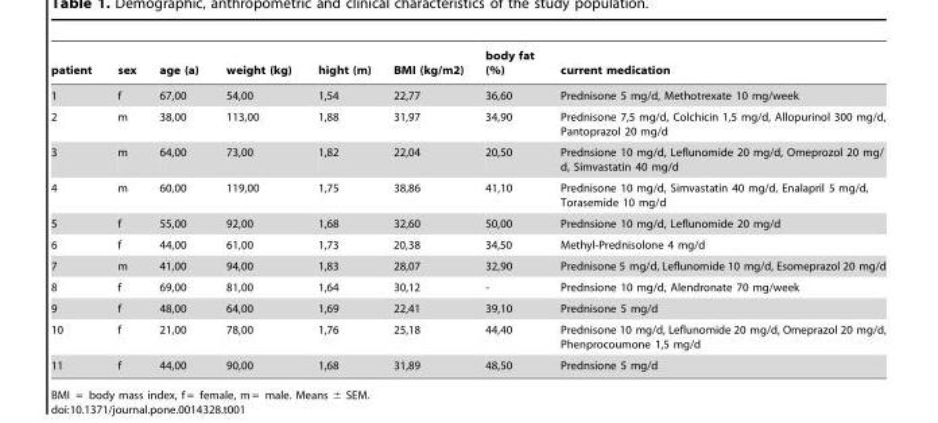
<table><thead><tr><td>patient</td><td>sex</td><td>age (a)</td><td>weight (kg)</td><td>hight (m)</td><td>BMI (kg/m2)</td><td>body fat (%)</td><td>current medication</td></tr></thead><tbody><tr><td>1</td><td>f</td><td>67,00</td><td>54,00</td><td>1,54</td><td>22,77</td><td>36,60</td><td>Prednisone 5 mg/d, Methotrexate 10 mg/week</td></tr><tr><td>2</td><td>m</td><td>38,00</td><td>113,00</td><td>1,88</td><td>31,97</td><td>34,90</td><td>Prednisone 7,5 mg/d, Colchicin 1,5 mg/d, Allopurinol 300 mg/d, Pantoprazol 20 mg/d</td></tr><tr><td>3</td><td>m</td><td>64,00</td><td>73,00</td><td>1,82</td><td>22,04</td><td>20,50</td><td>Prednsione 10 mg/d, Leflunomide 20 mg/d, Omeprozol 20 mg/ d, Simvastatin 40 mg/d</td></tr><tr><td>4</td><td>m</td><td>60,00</td><td>119,00</td><td>1,75</td><td>38,86</td><td>41,10</td><td>Prednisone 10 mg/d, Simvastatin 40 mg/d, Enalapril 5 mg/d, Torasemide 10 mg/d</td></tr><tr><td>5</td><td>f</td><td>55,00</td><td>92,00</td><td>1,68</td><td>32,60</td><td>50,00</td><td>Prednsione 10 mg/d, Leflunomide 20 mg/d</td></tr><tr><td>6</td><td>f</td><td>44,00</td><td>61,00</td><td>1,73</td><td>20,38</td><td>34,50</td><td>Methyl-Prednisolone 4 mg/d</td></tr><tr><td>7</td><td>m</td><td>41,00</td><td>94,00</td><td>1,83</td><td>28,07</td><td>32,90</td><td>Prednisone 5 mg/d, Leflunomide 10 mg/d, Esomeprazol 20 mg/d</td></tr><tr><td>8</td><td>f</td><td>69,00</td><td>81,00</td><td>1,64</td><td>30,12</td><td>-</td><td>Prednsione 10 mg/d, Alendronate 70 mg/week</td></tr><tr><td>9</td><td>f</td><td>48,00</td><td>64,00</td><td>1,69</td><td>22,41</td><td>39,10</td><td>Prednisone 5 mg/d</td></tr><tr><td>10</td><td>f</td><td>21,00</td><td>78,00</td><td>1,76</td><td>25,18</td><td>44,40</td><td>Prednisone 10 mg/d, Leflunomide 20 mg/d, Omeprazol 20 mg/d, Phenprocoumone 1,5 mg/d</td></tr><tr><td>11</td><td>f</td><td>44,00</td><td>90,00</td><td>1,68</td><td>31,89</td><td>48,50</td><td>Prednsione 5 mg/d</td></tr></tbody></table>